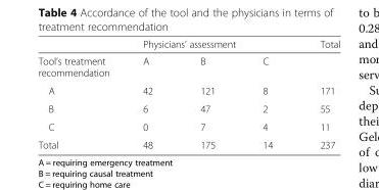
<table><thead><tr><td rowspan="2">Tool’s treatment recommendation</td><td colspan="3">Physicians’ assessment</td><td rowspan="2">Total</td></tr><tr><td>A</td><td>B</td><td>C</td></tr></thead><tbody><tr><td>A</td><td>42</td><td>121</td><td>8</td><td>171</td></tr><tr><td>B</td><td>6</td><td>47</td><td>2</td><td>55</td></tr><tr><td>C</td><td>0</td><td>7</td><td>4</td><td>11</td></tr><tr><td>Total</td><td>48</td><td>175</td><td>14</td><td>237</td></tr></tbody></table>